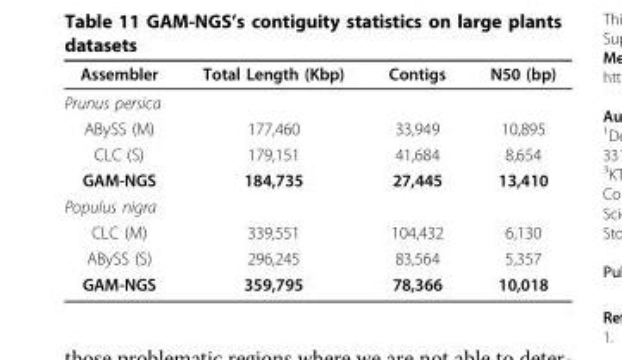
<table><thead><tr><td>Assembler</td><td>Total Length (Kbp)</td><td>Contigs</td><td>N50 (bp)</td></tr></thead><tbody><tr><td colspan="4">Prunus persica</td></tr><tr><td>ABySS (M)</td><td>177,460</td><td>33,949</td><td>10,895</td></tr><tr><td>CLC (S)</td><td>179,151</td><td>41,684</td><td>8,654</td></tr><tr><td>GAM-NGS</td><td>184,735</td><td>27,445</td><td>13,410</td></tr><tr><td colspan="4">Populus nigra</td></tr><tr><td>CLC (M)</td><td>339,551</td><td>104,432</td><td>6,130</td></tr><tr><td>ABySS (S)</td><td>296,245</td><td>83,564</td><td>5,357</td></tr><tr><td>GAM-NGS</td><td>359,795</td><td>78,366</td><td>10,018</td></tr></tbody></table>